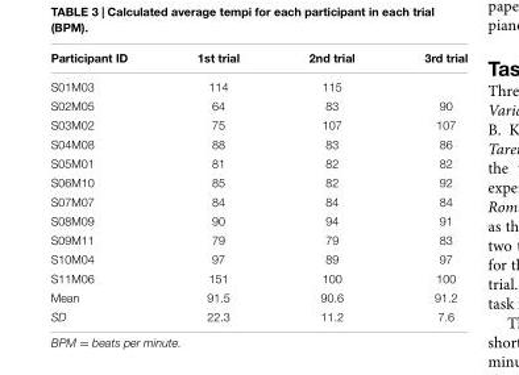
<table><thead><tr><td>Participant ID</td><td>1st trial</td><td>2nd trial</td><td>3rd trial</td></tr></thead><tbody><tr><td>S01M03</td><td>114</td><td>115</td><td></td></tr><tr><td>S02M05</td><td>64</td><td>83</td><td>90</td></tr><tr><td>S03M02</td><td>75</td><td>107</td><td>107</td></tr><tr><td>S04M08</td><td>88</td><td>83</td><td>86</td></tr><tr><td>S05M01</td><td>81</td><td>82</td><td>82</td></tr><tr><td>S06M10</td><td>85</td><td>82</td><td>92</td></tr><tr><td>S07M07</td><td>84</td><td>84</td><td>84</td></tr><tr><td>S08M09</td><td>90</td><td>94</td><td>91</td></tr><tr><td>S09M11</td><td>79</td><td>79</td><td>83</td></tr><tr><td>S10M04</td><td>97</td><td>89</td><td>97</td></tr><tr><td>S11M06</td><td>151</td><td>100</td><td>100</td></tr><tr><td>Mean</td><td>91.5</td><td>90.6</td><td>91.2</td></tr><tr><td>SD</td><td>22.3</td><td>11.2</td><td>7.6</td></tr></tbody></table>